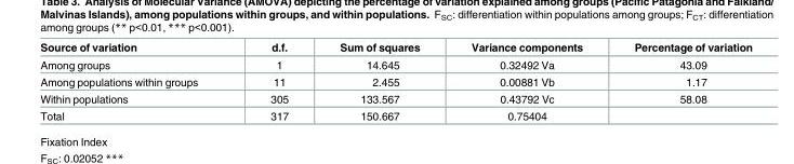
<table><thead><tr><td>Source of variation</td><td>d.f.</td><td>Sum of squares</td><td>Variance components</td><td>Percentage of variation</td></tr></thead><tbody><tr><td>Among groups</td><td>1</td><td>14.645</td><td>0.32492 Va</td><td>43.09</td></tr><tr><td>Among populations within groups</td><td>11</td><td>2.455</td><td>0.00881 Vb</td><td>1.17</td></tr><tr><td>Within populations</td><td>305</td><td>133.567</td><td>0.43792 Vc</td><td>58.08</td></tr><tr><td>Total</td><td>317</td><td>150.667</td><td>0.75404</td><td></td></tr></tbody></table>